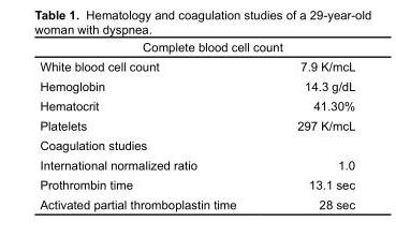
<table><thead><tr><td colspan="2">Complete blood cell count</td></tr><tr><td>White blood cell count</td><td>7.9 K/mcL</td></tr></thead><tbody><tr><td>Hemoglobin</td><td>14.3 g/dL</td></tr><tr><td>Hematocrit</td><td>41.30%</td></tr><tr><td>Platelets</td><td>297 K/mcL</td></tr><tr><td colspan="2">Coagulation studies</td></tr><tr><td>International normalized ratio</td><td>1.0</td></tr><tr><td>Prothrombin time</td><td>13.1 sec</td></tr><tr><td>Activated partial thromboplastin time</td><td>28 sec</td></tr></tbody></table>